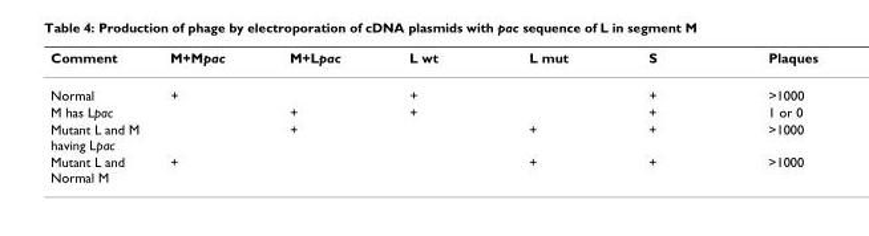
<table><thead><tr><td>Comment</td><td>M+Mpac</td><td>M+Lpac</td><td>L wt</td><td>L mut</td><td>S</td><td>Plaques</td></tr></thead><tbody><tr><td>Normal</td><td>+</td><td></td><td>+</td><td></td><td>+</td><td>&gt;1000</td></tr><tr><td>M has Lpac</td><td></td><td>+</td><td>+</td><td></td><td>+</td><td>1 or 0</td></tr><tr><td>Mutant L and M having Lpac</td><td></td><td>+</td><td></td><td>+</td><td>+</td><td>&gt;1000</td></tr><tr><td>Mutant L and Normal M</td><td>+</td><td></td><td></td><td>+</td><td>+</td><td>&gt;1000</td></tr></tbody></table>